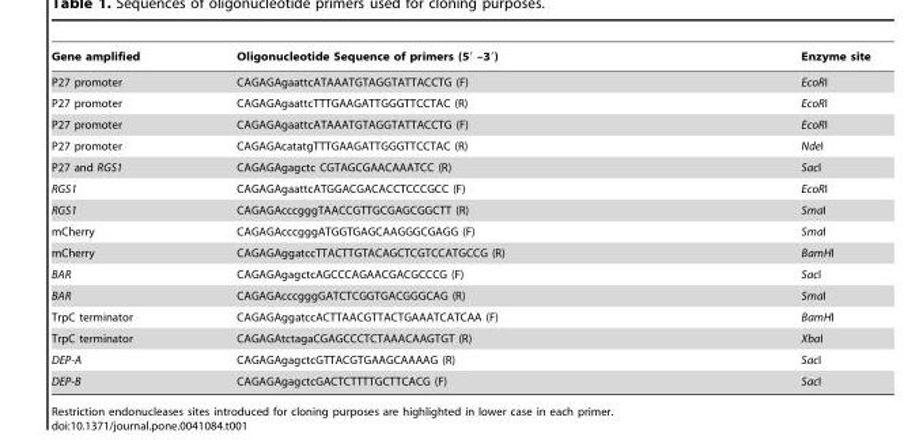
<table><thead><tr><td>Gene amplified</td><td>Oligonucleotide Sequence of primers (5′ –3′)</td><td>Enzyme site</td></tr></thead><tbody><tr><td>P27 promoter</td><td>CAGAGAgaattcATAAATGTAGGTATTACCTG (F)</td><td>EcoRI</td></tr><tr><td>P27 promoter</td><td>CAGAGAgaattcTTTGAAGATTGGGTTCCTAC (R)</td><td>EcoRI</td></tr><tr><td>P27 promoter</td><td>CAGAGAgaattcATAAATGTAGGTATTACCTG (F)</td><td>EcoRI</td></tr><tr><td>P27 promoter</td><td>CAGAGAcatatgTTTGAAGATTGGGTTCCTAC (R)</td><td>NdeI</td></tr><tr><td>P27 and RGS1</td><td>CAGAGAgagctc CGTAGCGAACAAATCC (R)</td><td>SacI</td></tr><tr><td>RGS1</td><td>CAGAGAgaattcATGGACGACACCTCCCGCC (F)</td><td>EcoRI</td></tr><tr><td>RGS1</td><td>CAGAGAcccgggTAACCGTTGCGAGCGGCTT (R)</td><td>SmaI</td></tr><tr><td>mCherry</td><td>CAGAGAcccgggATGGTGAGCAAGGGCGAGG (F)</td><td>SmaI</td></tr><tr><td>mCherry</td><td>CAGAGAggatccTTACTTGTACAGCTCGTCCATGCCG (R)</td><td>BamHI</td></tr><tr><td>BAR</td><td>CAGAGAgagctcAGCCCAGAACGACGCCCG (F)</td><td>SacI</td></tr><tr><td>BAR</td><td>CAGAGAcccgggGATCTCGGTGACGGGCAG (R)</td><td>SmaI</td></tr><tr><td>TrpC terminator</td><td>CAGAGAggatccACTTAACGTTACTGAAATCATCAA (F)</td><td>BamHI</td></tr><tr><td>TrpC terminator</td><td>CAGAGAtctagaCGAGCCCTCTAAACAAGTGT (R)</td><td>XbaI</td></tr><tr><td>DEP-A</td><td>CAGAGAgagctcGTTACGTGAAGCAAAAG (R)</td><td>SacI</td></tr><tr><td>DEP-B</td><td>CAGAGAgagctcGACTCTTTTGCTTCACG (F)</td><td>SacI</td></tr></tbody></table>